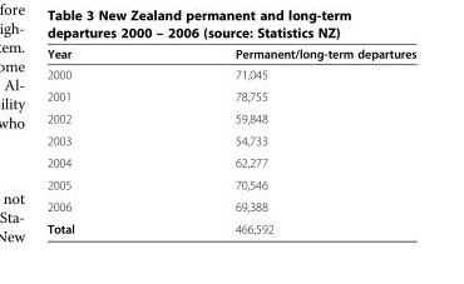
<table><thead><tr><td>Year</td><td>Permanent/long-term departures</td></tr></thead><tbody><tr><td>2000</td><td>71,045</td></tr><tr><td>2001</td><td>78,755</td></tr><tr><td>2002</td><td>59,848</td></tr><tr><td>2003</td><td>54,733</td></tr><tr><td>2004</td><td>62,277</td></tr><tr><td>2005</td><td>70,546</td></tr><tr><td>2006</td><td>69,388</td></tr><tr><td>Total</td><td>466,592</td></tr></tbody></table>